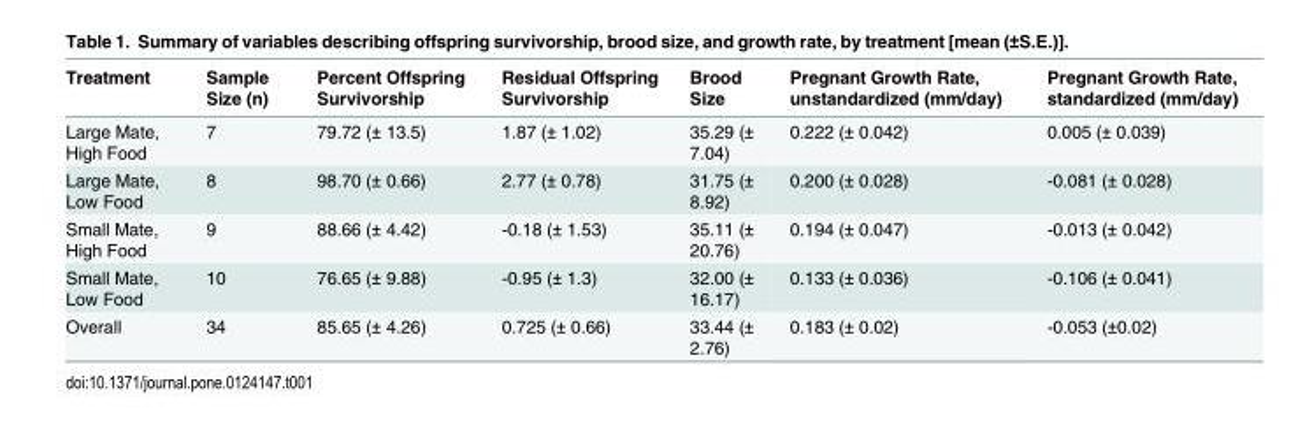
<table><thead><tr><td>Treatment</td><td>Sample Size (n)</td><td>Percent Offspring Survivorship</td><td>Residual Offspring Survivorship</td><td>Brood Size</td><td>Pregnant Growth Rate, unstandardized (mm/day)</td><td>Pregnant Growth Rate, standardized (mm/day)</td></tr></thead><tbody><tr><td>Large Mate, High Food</td><td>7</td><td>79.72 (± 13.5)</td><td>1.87 (± 1.02)</td><td>35.29 (± 7.04)</td><td>0.222 (± 0.042)</td><td>0.005 (± 0.039)</td></tr><tr><td>Large Mate, Low Food</td><td>8</td><td>98.70 (± 0.66)</td><td>2.77 (± 0.78)</td><td>31.75 (± 8.92)</td><td>0.200 (± 0.028)</td><td>-0.081 (± 0.028)</td></tr><tr><td>Small Mate, High Food</td><td>9</td><td>88.66 (± 4.42)</td><td>-0.18 (± 1.53)</td><td>35.11 (± 20.76)</td><td>0.194 (± 0.047)</td><td>-0.013 (± 0.042)</td></tr><tr><td>Small Mate, Low Food</td><td>10</td><td>76.65 (± 9.88)</td><td>-0.95 (± 1.3)</td><td>32.00 (± 16.17)</td><td>0.133 (± 0.036)</td><td>-0.106 (± 0.041)</td></tr><tr><td>Overall</td><td>34</td><td>85.65 (± 4.26)</td><td>0.725 (± 0.66)</td><td>33.44 (± 2.76)</td><td>0.183 (± 0.02)</td><td>-0.053 (±0.02)</td></tr></tbody></table>